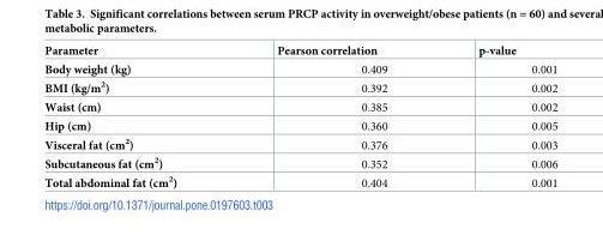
<table><thead><tr><td>Parameter</td><td>Pearson correlation</td><td>p-value</td></tr></thead><tbody><tr><td>Body weight (kg)</td><td>0.409</td><td>0.001</td></tr><tr><td>BMI (kg/m<sup>2</sup>)</td><td>0.392</td><td>0.002</td></tr><tr><td>Waist (cm)</td><td>0.385</td><td>0.002</td></tr><tr><td>Hip (cm)</td><td>0.360</td><td>0.005</td></tr><tr><td>Visceral fat (cm<sup>2</sup>)</td><td>0.376</td><td>0.003</td></tr><tr><td>Subcutaneous fat (cm<sup>2</sup>)</td><td>0.352</td><td>0.006</td></tr><tr><td>Total abdominal fat (cm<sup>2</sup>)</td><td>0.404</td><td>0.001</td></tr></tbody></table>